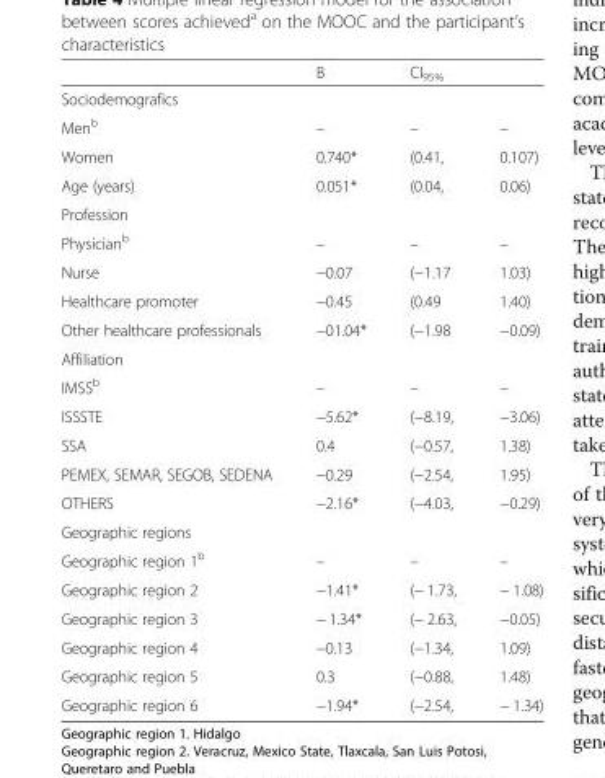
<table><thead><tr><td></td><td>Β</td><td colspan="2">CI<sub>95%</sub></td></tr><tr><td colspan="4">Sociodemografics</td></tr><tr><td>Men<sup>b</sup></td><td>–</td><td>–</td><td>–</td></tr></thead><tbody><tr><td>Women</td><td>0.740*</td><td>(0.41,</td><td>0.107)</td></tr><tr><td>Age (years)</td><td>0.051*</td><td>(0.04,</td><td>0.06)</td></tr><tr><td colspan="4">Profession</td></tr><tr><td>Physician<sup>b</sup></td><td>–</td><td>–</td><td>–</td></tr><tr><td>Nurse</td><td>−0.07</td><td>(−1.17</td><td>1.03)</td></tr><tr><td>Healthcare promoter</td><td>−0.45</td><td>(0.49</td><td>1.40)</td></tr><tr><td>Other healthcare professionals</td><td>−01.04*</td><td>(−1.98</td><td>−0.09)</td></tr><tr><td colspan="4">Affiliation</td></tr><tr><td>IMSS<sup>b</sup></td><td>–</td><td>–</td><td>–</td></tr><tr><td>ISSSTE</td><td>−5.62*</td><td>(−8.19,</td><td>−3.06)</td></tr><tr><td>SSA</td><td>0.4</td><td>(−0.57,</td><td>1.38)</td></tr><tr><td>PEMEX, SEMAR, SEGOB, SEDENA</td><td>−0.29</td><td>(−2.54,</td><td>1.95)</td></tr><tr><td>OTHERS</td><td>−2.16*</td><td>(−4.03,</td><td>−0.29)</td></tr><tr><td colspan="4">Geographic regions</td></tr><tr><td>Geographic region 1<sup>b</sup></td><td>–</td><td>–</td><td>–</td></tr><tr><td>Geographic region 2</td><td>−1.41*</td><td>(− 1.73,</td><td>− 1.08)</td></tr><tr><td>Geographic region 3</td><td>− 1.34*</td><td>(− 2.63,</td><td>−0.05)</td></tr><tr><td>Geographic region 4</td><td>−0.13</td><td>(−1.34,</td><td>1.09)</td></tr><tr><td>Geographic region 5</td><td>0.3</td><td>(−0.88,</td><td>1.48)</td></tr><tr><td>Geographic region 6</td><td>−1.94*</td><td>(−2.54,</td><td>− 1.34)</td></tr></tbody></table>